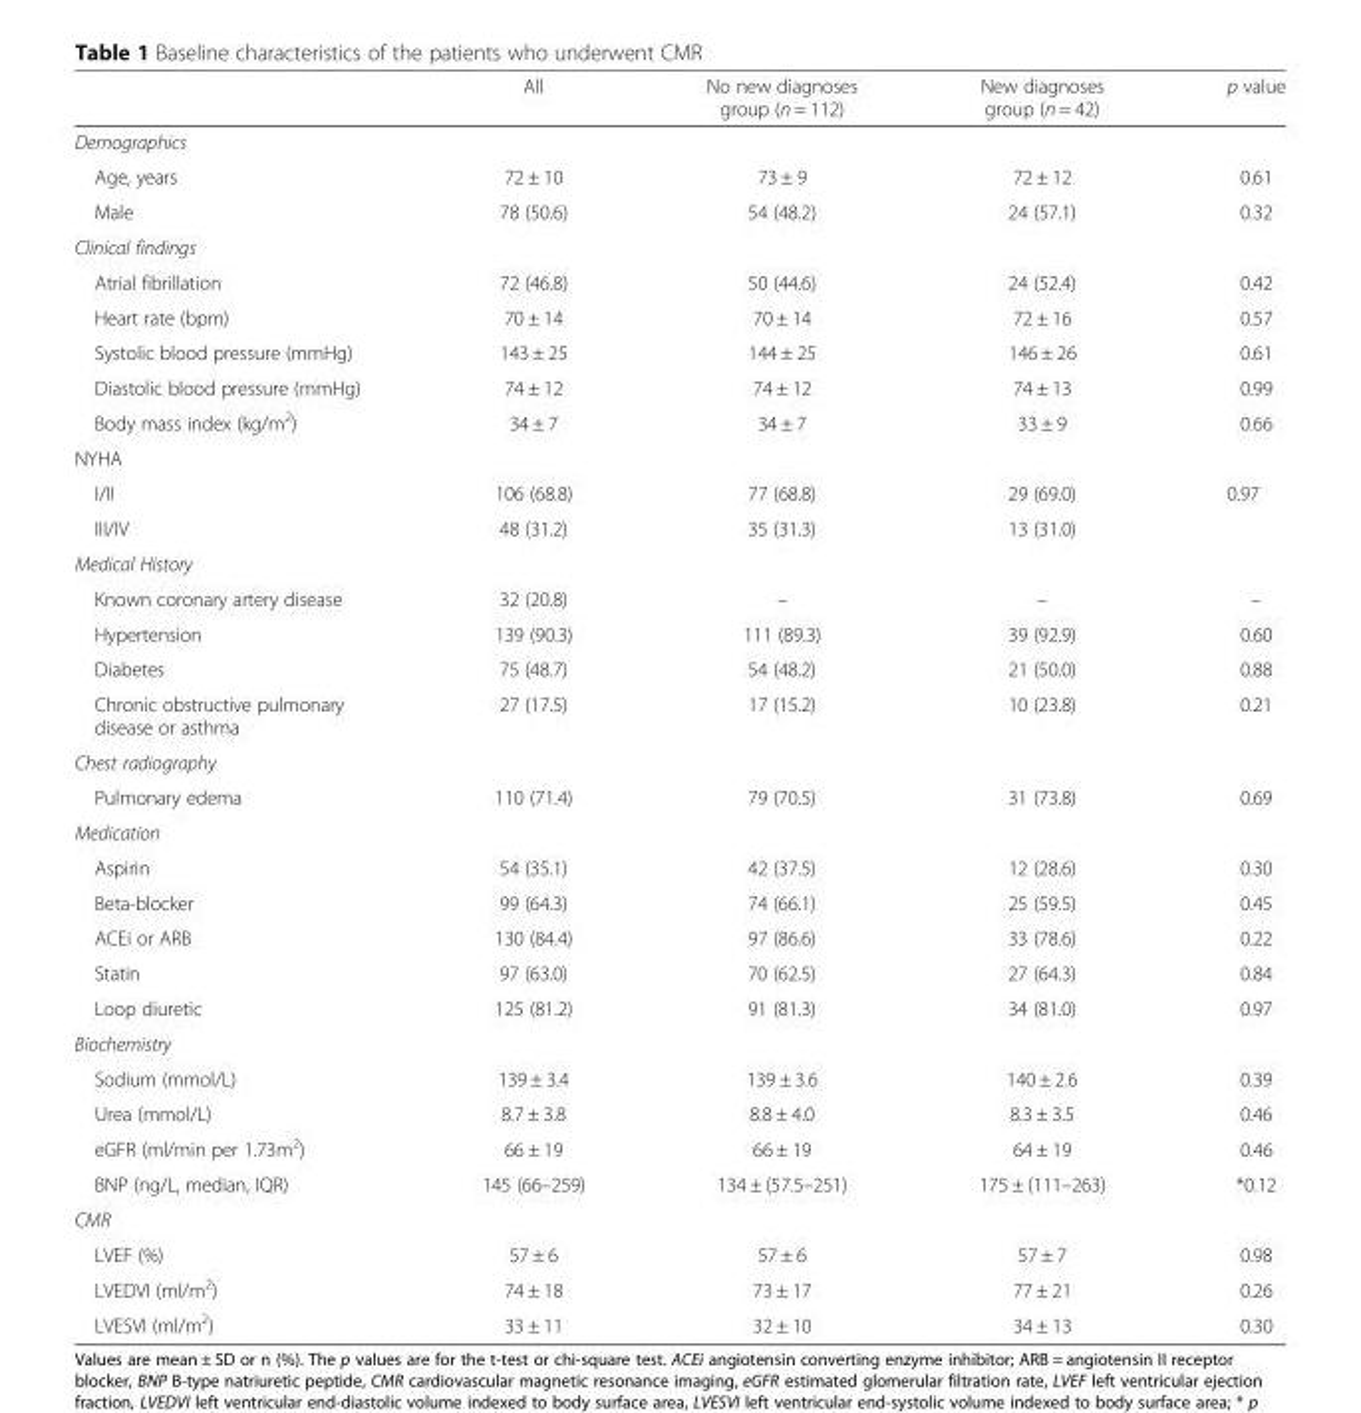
<table><thead><tr><td></td><td>All</td><td>No new diagnoses group (n = 112)</td><td>New diagnoses group (n = 42)</td><td>p value</td></tr></thead><tbody><tr><td colspan="5">Demographics</td></tr><tr><td>Age, years</td><td>72 ± 10</td><td>73 ± 9</td><td>72 ± 12</td><td>0.61</td></tr><tr><td>Male</td><td>78 (50.6)</td><td>54 (48.2)</td><td>24 (57.1)</td><td>0.32</td></tr><tr><td colspan="5">Clinical findings</td></tr><tr><td>Atrial fibrillation</td><td>72 (46.8)</td><td>50 (44.6)</td><td>24 (52.4)</td><td>0.42</td></tr><tr><td>Heart rate (bpm)</td><td>70 ± 14</td><td>70 ± 14</td><td>72 ± 16</td><td>0.57</td></tr><tr><td>Systolic blood pressure (mmHg)</td><td>143 ± 25</td><td>144 ± 25</td><td>146 ± 26</td><td>0.61</td></tr><tr><td>Diastolic blood pressure (mmHg)</td><td>74 ± 12</td><td>74 ± 12</td><td>74 ± 13</td><td>0.99</td></tr><tr><td>Body mass index (kg/m<sup>2</sup>)</td><td>34 ± 7</td><td>34 ± 7</td><td>33 ± 9</td><td>0.66</td></tr><tr><td colspan="5">NYHA</td></tr><tr><td>I/II</td><td>106 (68.8)</td><td>77 (68.8)</td><td>29 (69.0)</td><td rowspan="2">0.97</td></tr><tr><td>III/IV</td><td>48 (31.2)</td><td>35 (31.3)</td><td>13 (31.0)</td></tr><tr><td colspan="5">Medical History</td></tr><tr><td>Known coronary artery disease</td><td>32 (20.8)</td><td>–</td><td>–</td><td>–</td></tr><tr><td>Hypertension</td><td>139 (90.3)</td><td>111 (89.3)</td><td>39 (92.9)</td><td>0.60</td></tr><tr><td>Diabetes</td><td>75 (48.7)</td><td>54 (48.2)</td><td>21 (50.0)</td><td>0.88</td></tr><tr><td>Chronic obstructive pulmonary disease or asthma</td><td>27 (17.5)</td><td>17 (15.2)</td><td>10 (23.8)</td><td>0.21</td></tr><tr><td colspan="5">Chest radiography</td></tr><tr><td>Pulmonary edema</td><td>110 (71.4)</td><td>79 (70.5)</td><td>31 (73.8)</td><td>0.69</td></tr><tr><td colspan="5">Medication</td></tr><tr><td>Aspirin</td><td>54 (35.1)</td><td>42 (37.5)</td><td>12 (28.6)</td><td>0.30</td></tr><tr><td>Beta-blocker</td><td>99 (64.3)</td><td>74 (66.1)</td><td>25 (59.5)</td><td>0.45</td></tr><tr><td>ACEi or ARB</td><td>130 (84.4)</td><td>97 (86.6)</td><td>33 (78.6)</td><td>0.22</td></tr><tr><td>Statin</td><td>97 (63.0)</td><td>70 (62.5)</td><td>27 (64.3)</td><td>0.84</td></tr><tr><td>Loop diuretic</td><td>125 (81.2)</td><td>91 (81.3)</td><td>34 (81.0)</td><td>0.97</td></tr><tr><td colspan="5">Biochemistry</td></tr><tr><td>Sodium (mmol/L)</td><td>139 ± 3.4</td><td>139 ± 3.6</td><td>140 ± 2.6</td><td>0.39</td></tr><tr><td>Urea (mmol/L)</td><td>8.7 ± 3.8</td><td>8.8 ± 4.0</td><td>8.3 ± 3.5</td><td>0.46</td></tr><tr><td>eGFR (ml/min per 1.73m<sup>2</sup>)</td><td>66 ± 19</td><td>66 ± 19</td><td>64 ± 19</td><td>0.46</td></tr><tr><td>BNP (ng/L, median, IQR)</td><td>145 (66–259)</td><td>134 ± (57.5–251)</td><td>175 ± (111–263)</td><td>*0.12</td></tr><tr><td colspan="5">CMR</td></tr><tr><td>LVEF (%)</td><td>57 ± 6</td><td>57 ± 6</td><td>57 ± 7</td><td>0.98</td></tr><tr><td>LVEDVI (ml/m<sup>2</sup>)</td><td>74 ± 18</td><td>73 ± 17</td><td>77 ± 21</td><td>0.26</td></tr><tr><td>LVESVI (ml/m<sup>2</sup>)</td><td>33 ± 11</td><td>32 ± 10</td><td>34 ± 13</td><td>0.30</td></tr></tbody></table>